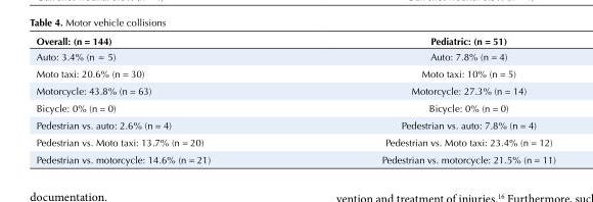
<table><tbody><tr><td>Overall: (n = 144)</td><td>Pediatric: (n = 51)</td></tr><tr><td>Auto: 3.4% (n = 5)</td><td>Auto: 7.8% (n = 4)</td></tr><tr><td>Moto taxi: 20.6% (n = 30)</td><td>Moto taxi: 10% (n = 5)</td></tr><tr><td>Motorcycle: 43.8% (n = 63)</td><td>Motorcycle: 27.3% (n = 14)</td></tr><tr><td>Bicycle: 0% (n = 0)</td><td>Bicycle: 0% (n = 0)</td></tr><tr><td>Pedestrian vs. auto: 2.6% (n = 4)</td><td>Pedestrian vs. auto: 7.8% (n = 4)</td></tr><tr><td>Pedestrian vs. Moto taxi: 13.7% (n = 20)</td><td>Pedestrian vs. Moto taxi: 23.4% (n = 12)</td></tr><tr><td>Pedestrian vs. motorcycle: 14.6% (n = 21)</td><td>Pedestrian vs. motorcycle: 21.5% (n = 11)</td></tr></tbody></table>